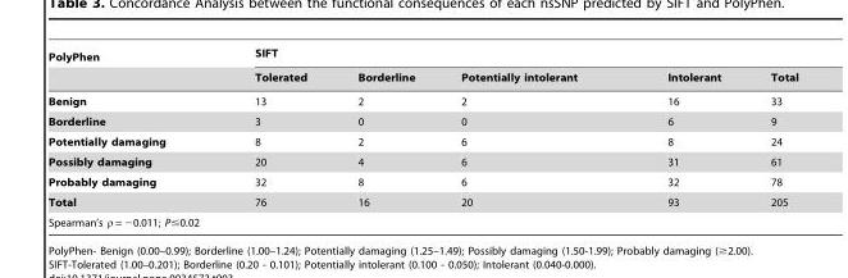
<table><thead><tr><td rowspan="2">PolyPhen</td><td colspan="5">SIFT</td></tr><tr><td>Tolerated</td><td>Borderline</td><td>Potentially intolerant</td><td>Intolerant</td><td>Total</td></tr></thead><tbody><tr><td>Benign</td><td>13</td><td>2</td><td>2</td><td>16</td><td>33</td></tr><tr><td>Borderline</td><td>3</td><td>0</td><td>0</td><td>6</td><td>9</td></tr><tr><td>Potentially damaging</td><td>8</td><td>2</td><td>6</td><td>8</td><td>24</td></tr><tr><td>Possibly damaging</td><td>20</td><td>4</td><td>6</td><td>31</td><td>61</td></tr><tr><td>Probably damaging</td><td>32</td><td>8</td><td>6</td><td>32</td><td>78</td></tr><tr><td>Total</td><td>76</td><td>16</td><td>20</td><td>93</td><td>205</td></tr><tr><td colspan="6">Spearman’s ρ = −0.011; P≤0.02</td></tr></tbody></table>